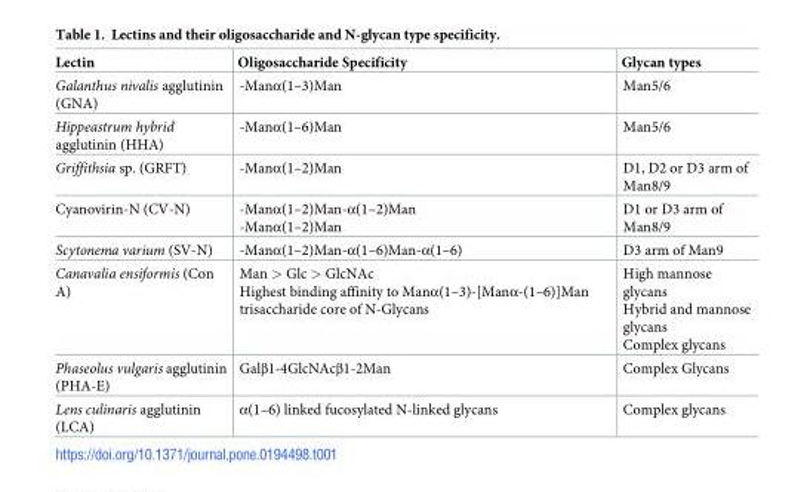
<table><thead><tr><td>Lectin</td><td>Oligosaccharide Specificity</td><td>Glycan types</td></tr></thead><tbody><tr><td>Galanthus nivalis agglutinin (GNA)</td><td>-Manα(1–3)Man</td><td>Man5/6</td></tr><tr><td>Hippeastrum hybrid agglutinin (HHA)</td><td>-Manα(1–6)Man</td><td>Man5/6</td></tr><tr><td>Griffithsia sp. (GRFT)</td><td>-Manα(1–2)Man</td><td>D1, D2 or D3 arm of Man8/9</td></tr><tr><td>Cyanovirin-N (CV-N)</td><td>-Manα(1–2)Man-α(1–2)Man -Manα(1–2)Man</td><td>D1 or D3 arm of Man8/9</td></tr><tr><td>Scytonema varium (SV-N)</td><td>-Manα(1–2)Man-α(1–6)Man-α(1–6)</td><td>D3 arm of Man9</td></tr><tr><td>Canavalia ensiformis (Con A)</td><td>Man &gt; Glc &gt; GlcNAc Highest binding affinity to Manα(1–3)-[Manα-(1–6)]Man trisaccharide core of N-Glycans</td><td>High mannose glycans Hybrid and mannose glycans Complex glycans</td></tr><tr><td>Phaseolus vulgaris agglutinin (PHA-E)</td><td>Galβ1-4GlcNAcβ1-2Man</td><td>Complex Glycans</td></tr><tr><td>Lens culinaris agglutinin (LCA)</td><td>α(1–6) linked fucosylated N-linked glycans</td><td>Complex glycans</td></tr></tbody></table>